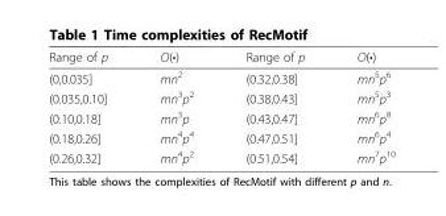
<table><thead><tr><td>Range of p</td><td>O(•)</td><td>Range of p</td><td>O(•)</td></tr></thead><tbody><tr><td>(0,0.035]</td><td>mn<sup>2</sup></td><td>(0.32,0.38]</td><td>mn<sup>5</sup>p<sup>6</sup></td></tr><tr><td>(0.035,0.10]</td><td>mn<sup>3</sup>p<sup>2</sup></td><td>(0.38,0.43]</td><td>mn<sup>5</sup>p<sup>3</sup></td></tr><tr><td>(0.10,0.18]</td><td>mn<sup>3</sup>p</td><td>(0.43,0.47]</td><td>mn<sup>6</sup>p<sup>8</sup></td></tr><tr><td>(0.18,0.26]</td><td>mn<sup>4</sup>p<sup>4</sup></td><td>(0.47,0.51]</td><td>mn<sup>6</sup>p<sup>4</sup></td></tr><tr><td>(0.26,0.32]</td><td>mn<sup>4</sup>p<sup>2</sup></td><td>(0.51,0.54]</td><td>mn<sup>7</sup>p<sup>10</sup></td></tr></tbody></table>